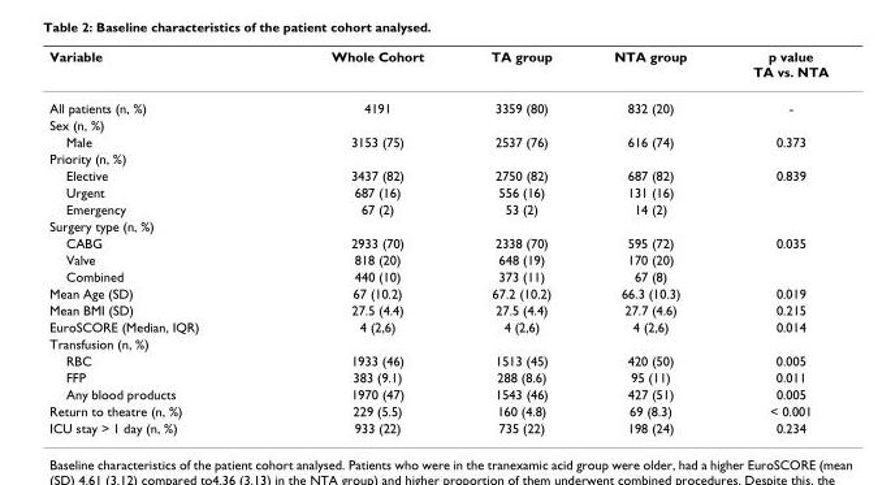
<table><thead><tr><td>Variable</td><td>Whole Cohort</td><td>TA group</td><td>NTA group</td><td>p value TA vs. NTA</td></tr></thead><tbody><tr><td>All patients (n, %)</td><td>4191</td><td>3359 (80)</td><td>832 (20)</td><td>-</td></tr><tr><td colspan="5">Sex (n, %)</td></tr><tr><td>Male</td><td>3153 (75)</td><td>2537 (76)</td><td>616 (74)</td><td>0.373</td></tr><tr><td colspan="5">Priority (n, %)</td></tr><tr><td>Elective</td><td>3437 (82)</td><td>2750 (82)</td><td>687 (82)</td><td>0.839</td></tr><tr><td>Urgent</td><td>687 (16)</td><td>556 (16)</td><td>131 (16)</td><td></td></tr><tr><td>Emergency</td><td>67 (2)</td><td>53 (2)</td><td>14 (2)</td><td></td></tr><tr><td colspan="5">Surgery type (n, %)</td></tr><tr><td>CABG</td><td>2933 (70)</td><td>2338 (70)</td><td>595 (72)</td><td>0.035</td></tr><tr><td>Valve</td><td>818 (20)</td><td>648 (19)</td><td>170 (20)</td><td></td></tr><tr><td>Combined</td><td>440 (10)</td><td>373 (11)</td><td>67 (8)</td><td></td></tr><tr><td>Mean Age (SD)</td><td>67 (10.2)</td><td>67.2 (10.2)</td><td>66.3 (10.3)</td><td>0.019</td></tr><tr><td>Mean BMI (SD)</td><td>27.5 (4.4)</td><td>27.5 (4.4)</td><td>27.7 (4.6)</td><td>0.215</td></tr><tr><td>EuroSCORE (Median, IQR)</td><td>4 (2,6)</td><td>4 (2,6)</td><td>4 (2,6)</td><td>0.014</td></tr><tr><td colspan="5">Transfusion (n, %)</td></tr><tr><td>RBC</td><td>1933 (46)</td><td>1513 (45)</td><td>420 (50)</td><td>0.005</td></tr><tr><td>FFP</td><td>383 (9.1)</td><td>288 (8.6)</td><td>95 (11)</td><td>0.011</td></tr><tr><td>Any blood products</td><td>1970 (47)</td><td>1543 (46)</td><td>427 (51)</td><td>0.005</td></tr><tr><td>Return to theatre (n, %)</td><td>229 (5.5)</td><td>160 (4.8)</td><td>69 (8.3)</td><td>&lt; 0.001</td></tr><tr><td>ICU stay &gt; 1 day (n, %)</td><td>933 (22)</td><td>735 (22)</td><td>198 (24)</td><td>0.234</td></tr></tbody></table>